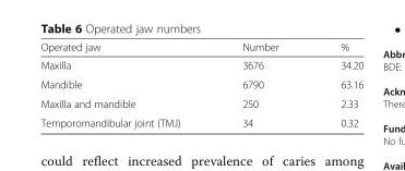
<table><thead><tr><td>Operated jaw</td><td>Number</td><td>%</td></tr></thead><tbody><tr><td>Maxilla</td><td>3676</td><td>34.20</td></tr><tr><td>Mandible</td><td>6790</td><td>63.16</td></tr><tr><td>Maxilla and mandible</td><td>250</td><td>2.33</td></tr><tr><td>Temporomandibular joint (TMJ)</td><td>34</td><td>0.32</td></tr></tbody></table>